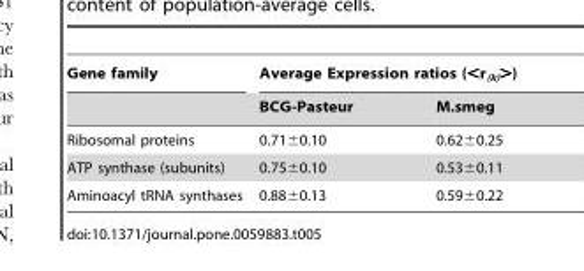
<table><thead><tr><td rowspan="2">Gene family</td><td colspan="2">Average Expression ratios (&lt;r<sub>(k)</sub>&gt;)</td></tr><tr><td>BCG-Pasteur</td><td>M.smeg</td></tr></thead><tbody><tr><td>Ribosomal proteins</td><td>0.71±0.10</td><td>0.62±0.25</td></tr><tr><td>ATP synthase (subunits)</td><td>0.75±0.10</td><td>0.53±0.11</td></tr><tr><td>Aminoacyl tRNA synthases</td><td>0.88±0.13</td><td>0.59±0.22</td></tr></tbody></table>